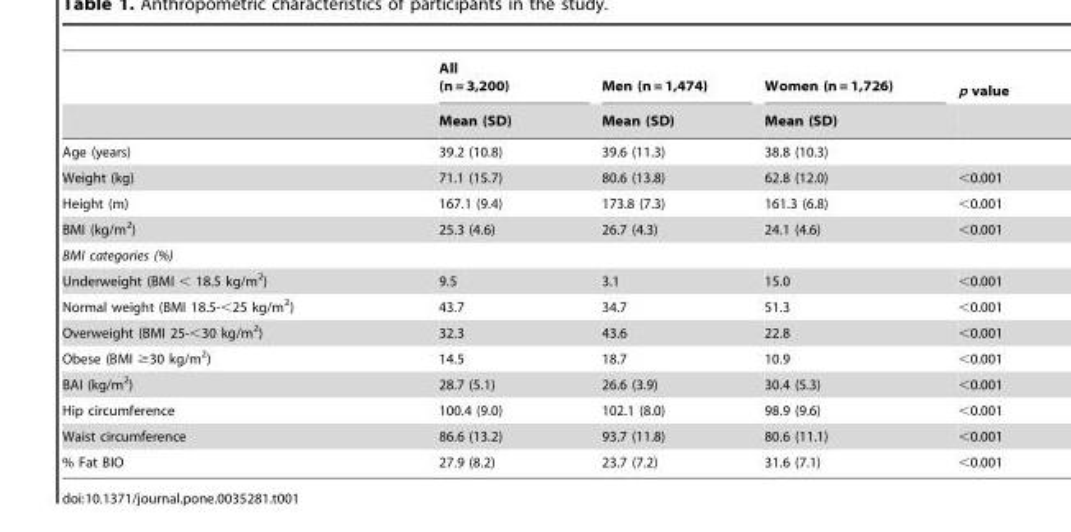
<table><thead><tr><td rowspan="2"></td><td rowspan="2">All (n = 3,200) Mean (SD)</td><td rowspan="2">Men (n = 1,474) Mean (SD)</td><td rowspan="2">Women (n = 1,726) Mean (SD)</td><td rowspan="2">p value</td></tr><tr></tr></thead><tbody><tr><td>Age (years)</td><td>39.2 (10.8)</td><td>39.6 (11.3)</td><td>38.8 (10.3)</td><td></td></tr><tr><td>Weight (kg)</td><td>71.1 (15.7)</td><td>80.6 (13.8)</td><td>62.8 (12.0)</td><td>&lt;0.001</td></tr><tr><td>Height (m)</td><td>167.1 (9.4)</td><td>173.8 (7.3)</td><td>161.3 (6.8)</td><td>&lt;0.001</td></tr><tr><td>BMI (kg/m<sup>2</sup>)</td><td>25.3 (4.6)</td><td>26.7 (4.3)</td><td>24.1 (4.6)</td><td>&lt;0.001</td></tr><tr><td colspan="5">BMI categories (%)</td></tr><tr><td>Underweight (BMI &lt; 18.5 kg/m<sup>2</sup>)</td><td>9.5</td><td>3.1</td><td>15.0</td><td>&lt;0.001</td></tr><tr><td>Normal weight (BMI 18.5-&lt;25 kg/m<sup>2</sup>)</td><td>43.7</td><td>34.7</td><td>51.3</td><td>&lt;0.001</td></tr><tr><td>Overweight (BMI 25-&lt;30 kg/m<sup>2</sup>)</td><td>32.3</td><td>43.6</td><td>22.8</td><td>&lt;0.001</td></tr><tr><td>Obese (BMI ≥30 kg/m<sup>2</sup>)</td><td>14.5</td><td>18.7</td><td>10.9</td><td>&lt;0.001</td></tr><tr><td>BAI (kg/m<sup>2</sup>)</td><td>28.7 (5.1)</td><td>26.6 (3.9)</td><td>30.4 (5.3)</td><td>&lt;0.001</td></tr><tr><td>Hip circumference</td><td>100.4 (9.0)</td><td>102.1 (8.0)</td><td>98.9 (9.6)</td><td>&lt;0.001</td></tr><tr><td>Waist circumference</td><td>86.6 (13.2)</td><td>93.7 (11.8)</td><td>80.6 (11.1)</td><td>&lt;0.001</td></tr><tr><td>% Fat BIO</td><td>27.9 (8.2)</td><td>23.7 (7.2)</td><td>31.6 (7.1)</td><td>&lt;0.001</td></tr></tbody></table>